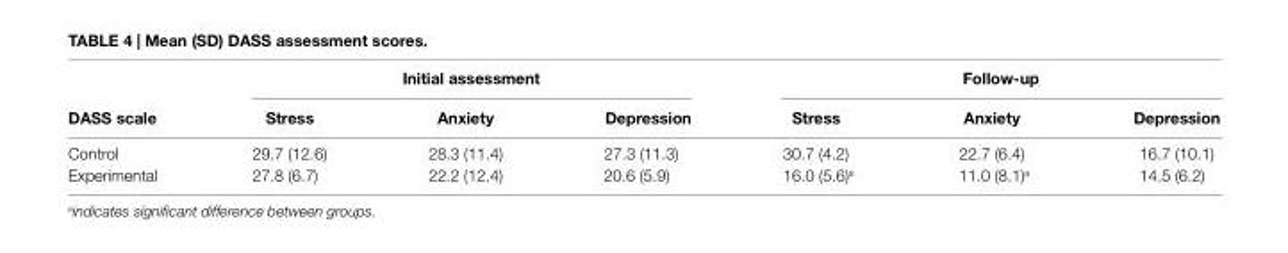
<table><thead><tr><td rowspan="2">Dass scale</td><td colspan="3">initial assessment</td><td colspan="3">Follow-up</td></tr><tr><td>stress</td><td>anxiety</td><td>Depression</td><td>stress</td><td>anxiety</td><td>Depression</td></tr></thead><tbody><tr><td>Control</td><td>29.7 (12.6)</td><td>28.3 (11.4)</td><td>27.3 (11.3)</td><td>30.7 (4.2)</td><td>22.7 (6.4)</td><td>16.7 (10.1)</td></tr><tr><td>Experimental</td><td>27.8 (6.7)</td><td>22.2 (12.4)</td><td>20.6 (5.9)</td><td>16.0 (5.6)<sup>a</sup></td><td>11.0 (8.1)<sup>a</sup></td><td>14.5 (6.2)</td></tr></tbody></table>